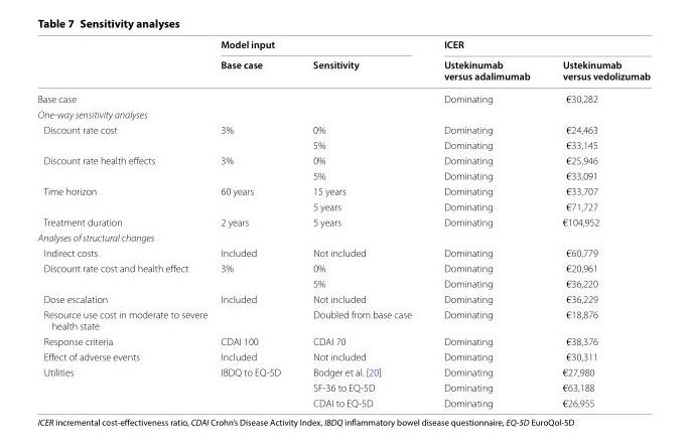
<table><thead><tr><td rowspan="2"></td><td colspan="2">Model input</td><td colspan="2">ICER</td></tr><tr><td>Base case</td><td>Sensitivity</td><td>Ustekinumab versus adalimumab</td><td>Ustekinumab versus vedolizumab</td></tr></thead><tbody><tr><td colspan="3">Base case</td><td>Dominating</td><td>€30,282</td></tr><tr><td colspan="5">One-way sensitivity analyses</td></tr><tr><td rowspan="2">Discount rate cost</td><td rowspan="2">3%</td><td>0%</td><td>Dominating</td><td>€24,463</td></tr><tr><td>5%</td><td>Dominating</td><td>€33,145</td></tr><tr><td rowspan="2">Discount rate health effects</td><td rowspan="2">3%</td><td>0%</td><td>Dominating</td><td>€25,946</td></tr><tr><td>5%</td><td>Dominating</td><td>€33,091</td></tr><tr><td rowspan="2">Time horizon</td><td rowspan="2">60 years</td><td>15 years</td><td>Dominating</td><td>€33,707</td></tr><tr><td>5 years</td><td>Dominating</td><td>€71,727</td></tr><tr><td>Treatment duration</td><td>2 years</td><td>5 years</td><td>Dominating</td><td>€104,952</td></tr><tr><td colspan="5">Analyses of structural changes</td></tr><tr><td>Indirect costs</td><td>Included</td><td>Not included</td><td>Dominating</td><td>€60,779</td></tr><tr><td rowspan="2">Discount rate cost and health effect</td><td rowspan="2">3%</td><td>0%</td><td>Dominating</td><td>€20,961</td></tr><tr><td>5%</td><td>Dominating</td><td>€36,220</td></tr><tr><td>Dose escalation</td><td>Included</td><td>Not included</td><td>Dominating</td><td>€36,229</td></tr><tr><td>Resource use cost in moderate to severe health state</td><td></td><td>Doubled from base case</td><td>Dominating</td><td>€18,876</td></tr><tr><td>Response criteria</td><td>CDAI 100</td><td>CDAI 70</td><td>Dominating</td><td>€38,376</td></tr><tr><td>Effect of adverse events</td><td>Included</td><td>Not included</td><td>Dominating</td><td>€30,311</td></tr><tr><td rowspan="3">Utilities</td><td rowspan="3">IBDQ to EQ‑5D</td><td>Bodger et al. [20]</td><td>Dominating</td><td>€27,980</td></tr><tr><td>SF‑36 to EQ‑5D</td><td>Dominating</td><td>€63,188</td></tr><tr><td>CDAI to EQ‑5D</td><td>Dominating</td><td>€26,955</td></tr></tbody></table>